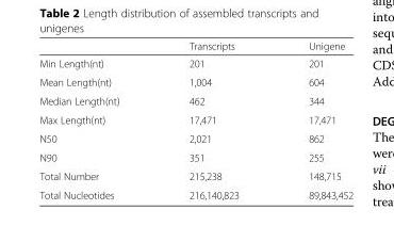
<table><thead><tr><td></td><td>Transcripts</td><td>Unigene</td></tr></thead><tbody><tr><td>Min Length(nt)</td><td>201</td><td>201</td></tr><tr><td>Mean Length(nt)</td><td>1,004</td><td>604</td></tr><tr><td>Median Length(nt)</td><td>462</td><td>344</td></tr><tr><td>Max Length(nt)</td><td>17,471</td><td>17,471</td></tr><tr><td>N50</td><td>2,021</td><td>862</td></tr><tr><td>N90</td><td>351</td><td>255</td></tr><tr><td>Total Number</td><td>215,238</td><td>148,715</td></tr><tr><td>Total Nucleotides</td><td>216,140,823</td><td>89,843,452</td></tr></tbody></table>